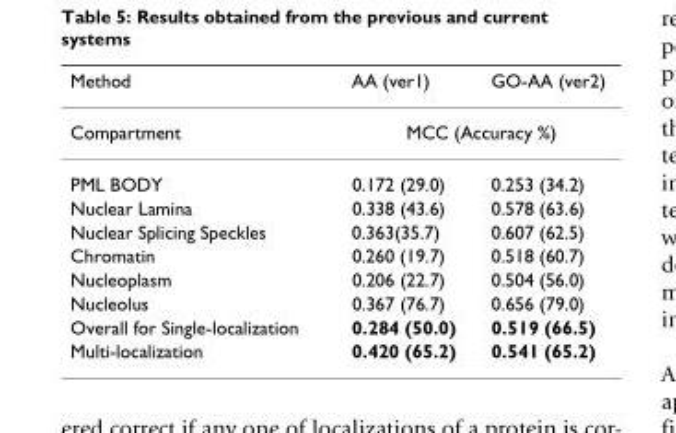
<table><thead><tr><td>Method</td><td>AA (ver1)</td><td>GO-AA (ver2)</td></tr></thead><tbody><tr><td>Compartment</td><td colspan="2">MCC (Accuracy %)</td></tr><tr><td>PML BODY</td><td>0.172 (29.0)</td><td>0.253 (34.2)</td></tr><tr><td>Nuclear Lamina</td><td>0.338 (43.6)</td><td>0.578 (63.6)</td></tr><tr><td>Nuclear Splicing Speckles</td><td>0.363(35.7)</td><td>0.607 (62.5)</td></tr><tr><td>Chromatin</td><td>0.260 (19.7)</td><td>0.518 (60.7)</td></tr><tr><td>Nucleoplasm</td><td>0.206 (22.7)</td><td>0.504 (56.0)</td></tr><tr><td>Nucleolus</td><td>0.367 (76.7)</td><td>0.656 (79.0)</td></tr><tr><td>Overall for Single-localization</td><td>0.284 (50.0)</td><td>0.519 (66.5)</td></tr><tr><td>Multi-localization</td><td>0.420 (65.2)</td><td>0.541 (65.2)</td></tr></tbody></table>